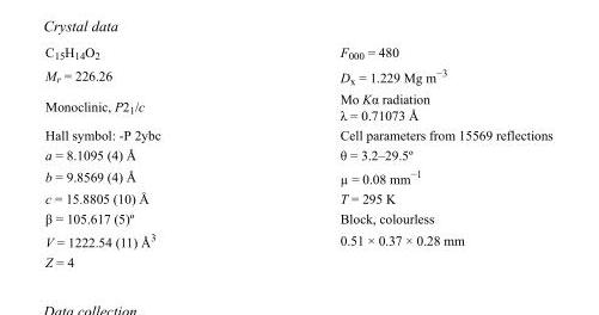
<table><tbody><tr><td>C<sub>15</sub>H<sub>14</sub>O<sub>2</sub></td><td>F000 = 480</td></tr><tr><td>M<sub>r</sub> = 226.26</td><td>D<sub>x</sub> = 1.229 Mg m<sup>−3</sup></td></tr><tr><td>Monoclinic, P2<sub>1</sub>/c</td><td>Mo Kα radiation λ = 0.71073 Å</td></tr><tr><td>Hall symbol: -P 2ybc</td><td>Cell parameters from 15569 reflections</td></tr><tr><td>a = 8.1095 (4) Å</td><td>θ = 3.2–29.5º</td></tr><tr><td>b = 9.8569 (4) Å</td><td>µ = 0.08 mm<sup>−1</sup></td></tr><tr><td>c = 15.8805 (10) Å</td><td>T = 295 K</td></tr><tr><td>β = 105.617 (5)º</td><td>Block, colourless</td></tr><tr><td>V = 1222.54 (11) Å<sup>3</sup></td><td>0.51 × 0.37 × 0.28 mm</td></tr><tr><td>Z = 4</td><td></td></tr></tbody></table>